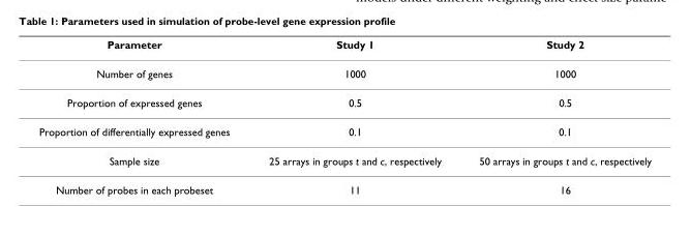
<table><thead><tr><td>Parameter</td><td>Study 1</td><td>Study 2</td></tr></thead><tbody><tr><td>Number of genes</td><td>1000</td><td>1000</td></tr><tr><td>Proportion of expressed genes</td><td>0.5</td><td>0.5</td></tr><tr><td>Proportion of differentially expressed genes</td><td>0.1</td><td>0.1</td></tr><tr><td>Sample size</td><td>25 arrays in groups t and c, respectively</td><td>50 arrays in groups t and c, respectively</td></tr><tr><td>Number of probes in each probeset</td><td>11</td><td>16</td></tr></tbody></table>